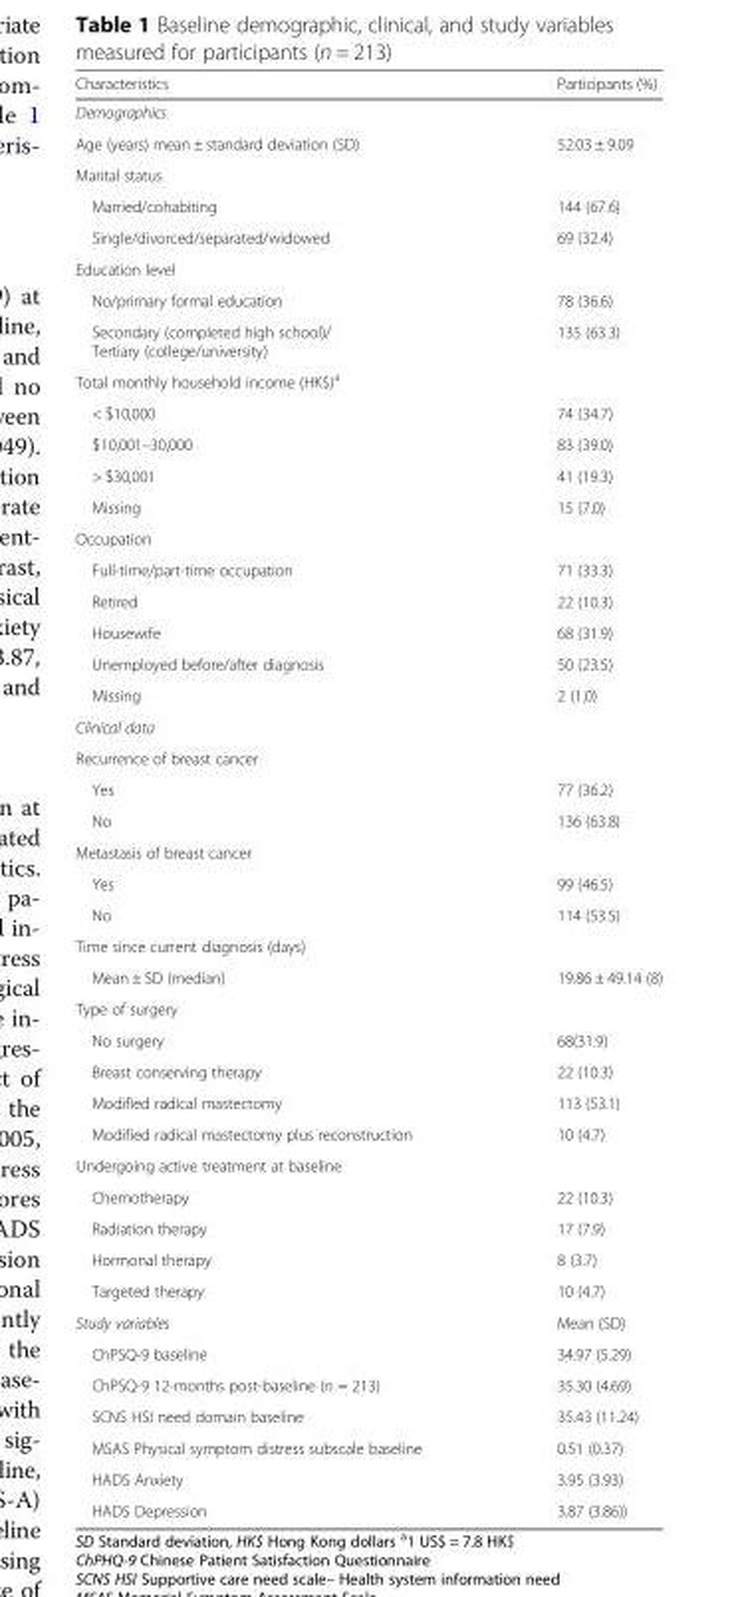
<table><thead><tr><td>Characteristics</td><td>Participants (%)</td></tr></thead><tbody><tr><td colspan="2">Demographics</td></tr><tr><td>Age (years) mean ± standard deviation (SD)</td><td>52.03 ± 9.09</td></tr><tr><td colspan="2">Marital status</td></tr><tr><td>Married/cohabiting</td><td>144 (67.6)</td></tr><tr><td>Single/divorced/separated/widowed</td><td>69 (32.4)</td></tr><tr><td colspan="2">Education level</td></tr><tr><td>No/primary formal education</td><td>78 (36.6)</td></tr><tr><td>Secondary (completed high school)/ Tertiary (college/university)</td><td>135 (63.3)</td></tr><tr><td colspan="2">Total monthly household income (HK$)<sup>a</sup></td></tr><tr><td>&lt; $10,000</td><td>74 (34.7)</td></tr><tr><td>$10,001–30,000</td><td>83 (39.0)</td></tr><tr><td>&gt; $30,001</td><td>41 (19.3)</td></tr><tr><td>Missing</td><td>15 (7.0)</td></tr><tr><td colspan="2">Occupation</td></tr><tr><td>Full-time/part-time occupation</td><td>71 (33.3)</td></tr><tr><td>Retired</td><td>22 (10.3)</td></tr><tr><td>Housewife</td><td>68 (31.9)</td></tr><tr><td>Unemployed before/after diagnosis</td><td>50 (23.5)</td></tr><tr><td>Missing</td><td>2 (1.0)</td></tr><tr><td colspan="2">Clinical data</td></tr><tr><td colspan="2">Recurrence of breast cancer</td></tr><tr><td>Yes</td><td>77 (36.2)</td></tr><tr><td>No</td><td>136 (63.8)</td></tr><tr><td colspan="2">Metastasis of breast cancer</td></tr><tr><td>Yes</td><td>99 (46.5)</td></tr><tr><td>No</td><td>114 (53.5)</td></tr><tr><td colspan="2">Time since current diagnosis (days)</td></tr><tr><td>Mean ± SD (median)</td><td>19.86 ± 49.14 (8)</td></tr><tr><td colspan="2">Type of surgery</td></tr><tr><td>No surgery</td><td>68(31.9)</td></tr><tr><td>Breast conserving therapy</td><td>22 (10.3)</td></tr><tr><td>Modified radical mastectomy</td><td>113 (53.1)</td></tr><tr><td>Modified radical mastectomy plus reconstruction</td><td>10 (4.7)</td></tr><tr><td colspan="2">Undergoing active treatment at baseline</td></tr><tr><td>Chemotherapy</td><td>22 (10.3)</td></tr><tr><td>Radiation therapy</td><td>17 (7.9)</td></tr><tr><td>Hormonal therapy</td><td>8 (3.7)</td></tr><tr><td>Targeted therapy</td><td>10 (4.7)</td></tr><tr><td>Study variables</td><td>Mean (SD)</td></tr><tr><td>ChPSQ-9 baseline</td><td>34.97 (5.29)</td></tr><tr><td>ChPSQ-9 12-months post-baseline (n = 213)</td><td>35.30 (4.69)</td></tr><tr><td>SCNS HSI need domain baseline</td><td>35.43 (11.24)</td></tr><tr><td>MSAS Physical symptom distress subscale baseline</td><td>0.51 (0.37)</td></tr><tr><td>HADS Anxiety</td><td>3.95 (3.93)</td></tr><tr><td>HADS Depression</td><td>3.87 (3.86))</td></tr></tbody></table>